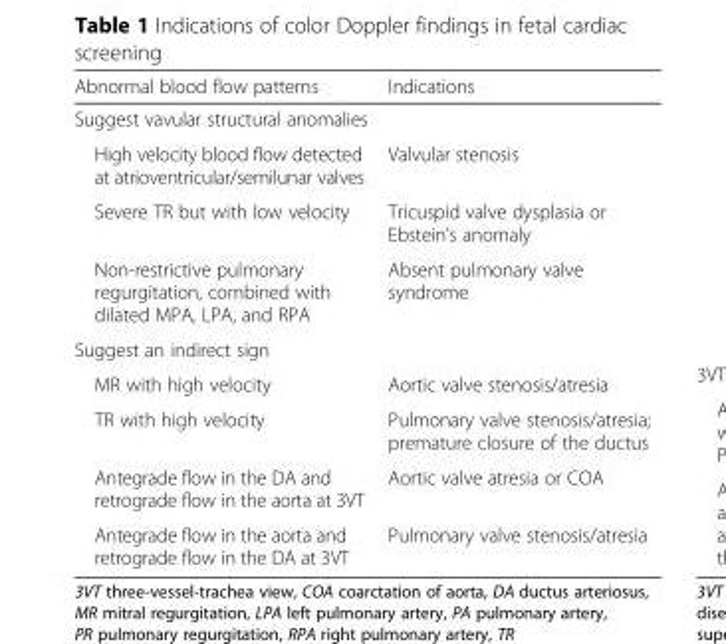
<table><thead><tr><td>Abnormal blood flow patterns</td><td>Indications</td></tr></thead><tbody><tr><td colspan="2">Suggest vavular structural anomalies</td></tr><tr><td>High velocity blood flow detected at atrioventricular/semilunar valves</td><td>Valvular stenosis</td></tr><tr><td>Severe TR but with low velocity</td><td>Tricuspid valve dysplasia or Ebstein’s anomaly</td></tr><tr><td>Non-restrictive pulmonary regurgitation, combined with dilated MPA, LPA, and RPA</td><td>Absent pulmonary valve syndrome</td></tr><tr><td colspan="2">Suggest an indirect sign</td></tr><tr><td>MR with high velocity</td><td>Aortic valve stenosis/atresia</td></tr><tr><td>TR with high velocity</td><td>Pulmonary valve stenosis/atresia; premature closure of the ductus</td></tr><tr><td>Antegrade flow in the DA and retrograde flow in the aorta at 3VT</td><td>Aortic valve atresia or COA</td></tr><tr><td>Antegrade flow in the aorta and retrograde flow in the DA at 3VT</td><td>Pulmonary valve stenosis/atresia</td></tr></tbody></table>